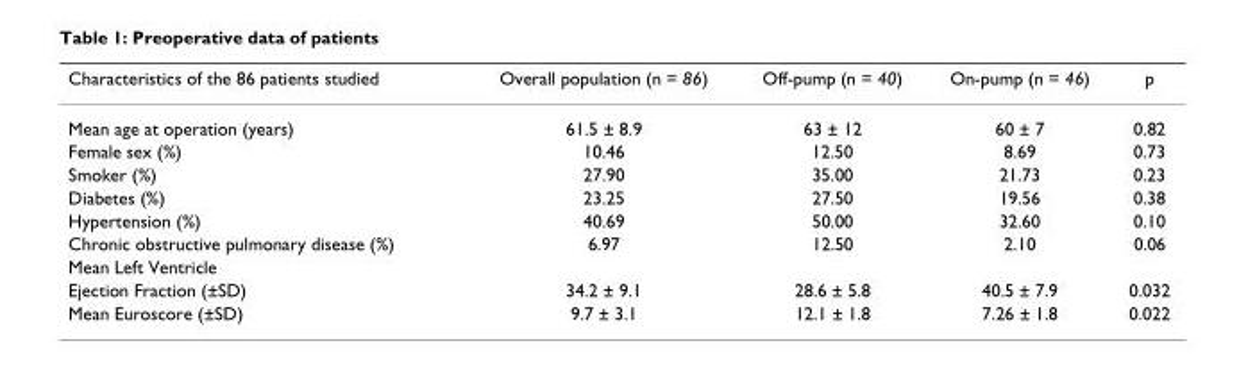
<table><thead><tr><td>Characteristics of the 86 patients studied</td><td>Overall population (n = 86)</td><td>Off-pump (n = 40)</td><td>On-pump (n = 46)</td><td>p</td></tr></thead><tbody><tr><td>Mean age at operation (years)</td><td>61.5 ± 8.9</td><td>63 ± 12</td><td>60 ± 7</td><td>0.82</td></tr><tr><td>Female sex (%)</td><td>10.46</td><td>12.50</td><td>8.69</td><td>0.73</td></tr><tr><td>Smoker (%)</td><td>27.90</td><td>35.00</td><td>21.73</td><td>0.23</td></tr><tr><td>Diabetes (%)</td><td>23.25</td><td>27.50</td><td>19.56</td><td>0.38</td></tr><tr><td>Hypertension (%)</td><td>40.69</td><td>50.00</td><td>32.60</td><td>0.10</td></tr><tr><td>Chronic obstructive pulmonary disease (%)</td><td>6.97</td><td>12.50</td><td>2.10</td><td>0.06</td></tr><tr><td colspan="5">Mean Left Ventricle</td></tr><tr><td>Ejection Fraction (±SD)</td><td>34.2 ± 9.1</td><td>28.6 ± 5.8</td><td>40.5 ± 7.9</td><td>0.032</td></tr><tr><td>Mean Euroscore (±SD)</td><td>9.7 ± 3.1</td><td>12.1 ± 1.8</td><td>7.26 ± 1.8</td><td>0.022</td></tr></tbody></table>